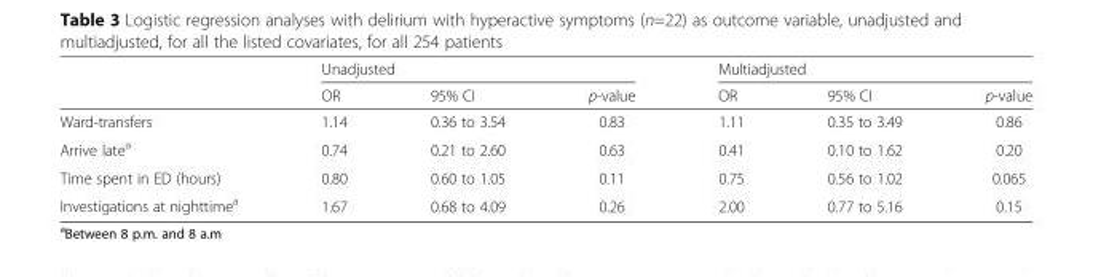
<table><thead><tr><td rowspan="2"></td><td colspan="3">Unadjusted</td><td colspan="3">Multiadjusted</td></tr><tr><td>OR</td><td>95% CI</td><td>p-value</td><td>OR</td><td>95% CI</td><td>p-value</td></tr></thead><tbody><tr><td>Ward-transfers</td><td>1.14</td><td>0.36 to 3.54</td><td>0.83</td><td>1.11</td><td>0.35 to 3.49</td><td>0.86</td></tr><tr><td>Arrive late<sup>a</sup></td><td>0.74</td><td>0.21 to 2.60</td><td>0.63</td><td>0.41</td><td>0.10 to 1.62</td><td>0.20</td></tr><tr><td>Time spent in ED (hours)</td><td>0.80</td><td>0.60 to 1.05</td><td>0.11</td><td>0.75</td><td>0.56 to 1.02</td><td>0.065</td></tr><tr><td>Investigations at nighttime<sup>a</sup></td><td>1.67</td><td>0.68 to 4.09</td><td>0.26</td><td>2.00</td><td>0.77 to 5.16</td><td>0.15</td></tr></tbody></table>